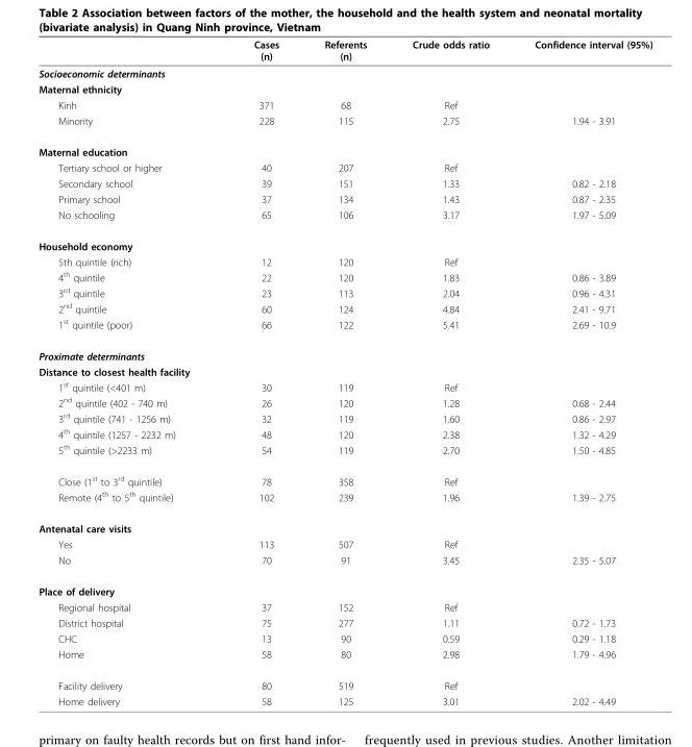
<table><thead><tr><td></td><td>Cases (n)</td><td>Referents (n)</td><td>Crude odds ratio</td><td>Confidence interval (95%)</td></tr></thead><tbody><tr><td colspan="5">Socioeconomic determinants</td></tr><tr><td colspan="5">Maternal ethnicity</td></tr><tr><td>Kinh</td><td>371</td><td>68</td><td>Ref</td><td></td></tr><tr><td>Minority</td><td>228</td><td>115</td><td>2.75</td><td>1.94 - 3.91</td></tr><tr><td colspan="5">Maternal education</td></tr><tr><td>Tertiary school or higher</td><td>40</td><td>207</td><td>Ref</td><td></td></tr><tr><td>Secondary school</td><td>39</td><td>151</td><td>1.33</td><td>0.82 - 2.18</td></tr><tr><td>Primary school</td><td>37</td><td>134</td><td>1.43</td><td>0.87 - 2.35</td></tr><tr><td>No schooling</td><td>65</td><td>106</td><td>3.17</td><td>1.97 - 5.09</td></tr><tr><td colspan="5">Household economy</td></tr><tr><td>5th quintile (rich)</td><td>12</td><td>120</td><td>Ref</td><td></td></tr><tr><td>4<sup>th</sup> quintile</td><td>22</td><td>120</td><td>1.83</td><td>0.86 - 3.89</td></tr><tr><td>3<sup>rd</sup> quintile</td><td>23</td><td>113</td><td>2.04</td><td>0.96 - 4.31</td></tr><tr><td>2<sup>nd</sup> quintile</td><td>60</td><td>124</td><td>4.84</td><td>2.41 - 9.71</td></tr><tr><td>1<sup>st</sup> quintile (poor)</td><td>66</td><td>122</td><td>5.41</td><td>2.69 - 10.9</td></tr><tr><td colspan="5">Proximate determinants</td></tr><tr><td colspan="5">Distance to closest health facility</td></tr><tr><td>1<sup>st</sup> quintile (&lt;401 m)</td><td>30</td><td>119</td><td>Ref</td><td></td></tr><tr><td>2<sup>nd</sup> quintile (402 - 740 m)</td><td>26</td><td>120</td><td>1.28</td><td>0.68 - 2.44</td></tr><tr><td>3<sup>rd</sup> quintile (741 - 1256 m)</td><td>32</td><td>119</td><td>1.60</td><td>0.86 - 2.97</td></tr><tr><td>4<sup>th</sup> quintile (1257 - 2232 m)</td><td>48</td><td>120</td><td>2.38</td><td>1.32 - 4.29</td></tr><tr><td>5<sup>th</sup> quintile (&gt;2233 m)</td><td>54</td><td>119</td><td>2.70</td><td>1.50 - 4.85</td></tr><tr><td>Close (1<sup>st</sup> to 3<sup>rd</sup> quintile)</td><td>78</td><td>358</td><td>Ref</td><td></td></tr><tr><td>Remote (4<sup>th</sup> to 5<sup>th</sup> quintile)</td><td>102</td><td>239</td><td>1.96</td><td>1.39 - 2.75</td></tr><tr><td colspan="5">Antenatal care visits</td></tr><tr><td>Yes</td><td>113</td><td>507</td><td>Ref</td><td></td></tr><tr><td>No</td><td>70</td><td>91</td><td>3.45</td><td>2.35 - 5.07</td></tr><tr><td colspan="5">Place of delivery</td></tr><tr><td>Regional hospital</td><td>37</td><td>152</td><td>Ref</td><td></td></tr><tr><td>District hospital</td><td>75</td><td>277</td><td>1.11</td><td>0.72 - 1.73</td></tr><tr><td>CHC</td><td>13</td><td>90</td><td>0.59</td><td>0.29 - 1.18</td></tr><tr><td>Home</td><td>58</td><td>80</td><td>2.98</td><td>1.79 - 4.96</td></tr><tr><td>Facility delivery</td><td>80</td><td>519</td><td>Ref</td><td></td></tr><tr><td>Home delivery</td><td>58</td><td>125</td><td>3.01</td><td>2.02 - 4.49</td></tr></tbody></table>